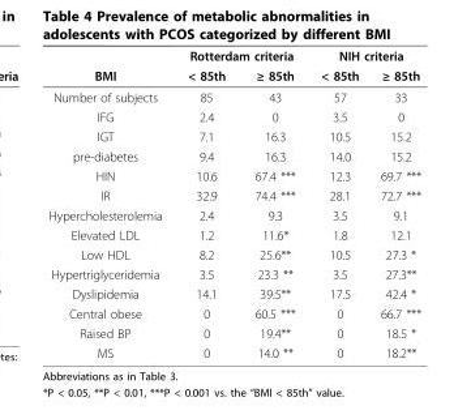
<table><thead><tr><td rowspan="2">BMI</td><td colspan="2">Rotterdam criteria</td><td colspan="2">NIH criteria</td></tr><tr><td>&lt; 85th</td><td>≥ 85th</td><td>&lt; 85th</td><td>≥ 85th</td></tr></thead><tbody><tr><td>Number of subjects</td><td>85</td><td>43</td><td>57</td><td>33</td></tr><tr><td>IFG</td><td>2.4</td><td>0</td><td>3.5</td><td>0</td></tr><tr><td>IGT</td><td>7.1</td><td>16.3</td><td>10.5</td><td>15.2</td></tr><tr><td>pre-diabetes</td><td>9.4</td><td>16.3</td><td>14.0</td><td>15.2</td></tr><tr><td>HIN</td><td>10.6</td><td>67.4 ***</td><td>12.3</td><td>69.7 ***</td></tr><tr><td>IR</td><td>32.9</td><td>74.4 ***</td><td>28.1</td><td>72.7 ***</td></tr><tr><td>Hypercholesterolemia</td><td>2.4</td><td>9.3</td><td>3.5</td><td>9.1</td></tr><tr><td>Elevated LDL</td><td>1.2</td><td>11.6*</td><td>1.8</td><td>12.1</td></tr><tr><td>Low HDL</td><td>8.2</td><td>25.6**</td><td>10.5</td><td>27.3 *</td></tr><tr><td>Hypertriglyceridemia</td><td>3.5</td><td>23.3 **</td><td>3.5</td><td>27.3**</td></tr><tr><td>Dyslipidemia</td><td>14.1</td><td>39.5**</td><td>17.5</td><td>42.4 *</td></tr><tr><td>Central obese</td><td>0</td><td>60.5 ***</td><td>0</td><td>66.7 ***</td></tr><tr><td>Raised BP</td><td>0</td><td>19.4**</td><td>0</td><td>18.5 *</td></tr><tr><td>MS</td><td>0</td><td>14.0 **</td><td>0</td><td>18.2**</td></tr></tbody></table>